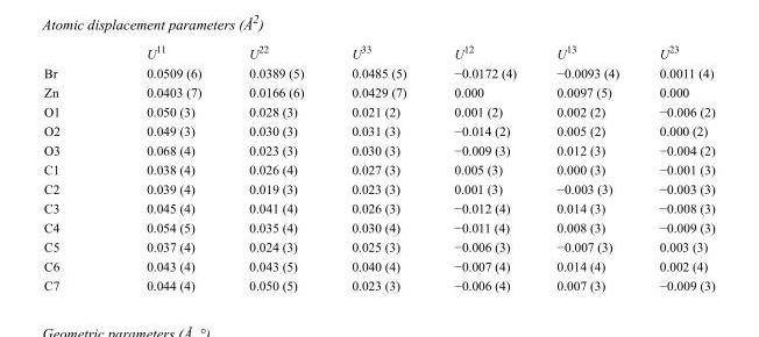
<table><thead><tr><td></td><td>U<sup>11</sup></td><td>U<sup>22</sup></td><td>U<sup>33</sup></td><td>U<sup>12</sup></td><td>U<sup>13</sup></td><td>U<sup>23</sup></td></tr></thead><tbody><tr><td>Br</td><td>0.0509 (6)</td><td>0.0389 (5)</td><td>0.0485 (5)</td><td>−0.0172 (4)</td><td>−0.0093 (4)</td><td>0.0011 (4)</td></tr><tr><td>Zn</td><td>0.0403 (7)</td><td>0.0166 (6)</td><td>0.0429 (7)</td><td>0.000</td><td>0.0097 (5)</td><td>0.000</td></tr><tr><td>O1</td><td>0.050 (3)</td><td>0.028 (3)</td><td>0.021 (2)</td><td>0.001 (2)</td><td>0.002 (2)</td><td>−0.006 (2)</td></tr><tr><td>O2</td><td>0.049 (3)</td><td>0.030 (3)</td><td>0.031 (3)</td><td>−0.014 (2)</td><td>0.005 (2)</td><td>0.000 (2)</td></tr><tr><td>O3</td><td>0.068 (4)</td><td>0.023 (3)</td><td>0.030 (3)</td><td>−0.009 (3)</td><td>0.012 (3)</td><td>−0.004 (2)</td></tr><tr><td>C1</td><td>0.038 (4)</td><td>0.026 (4)</td><td>0.027 (3)</td><td>0.005 (3)</td><td>0.000 (3)</td><td>−0.001 (3)</td></tr><tr><td>C2</td><td>0.039 (4)</td><td>0.019 (3)</td><td>0.023 (3)</td><td>0.001 (3)</td><td>−0.003 (3)</td><td>−0.003 (3)</td></tr><tr><td>C3</td><td>0.045 (4)</td><td>0.041 (4)</td><td>0.026 (3)</td><td>−0.012 (4)</td><td>0.014 (3)</td><td>−0.008 (3)</td></tr><tr><td>C4</td><td>0.054 (5)</td><td>0.035 (4)</td><td>0.030 (4)</td><td>−0.011 (4)</td><td>0.008 (3)</td><td>−0.009 (3)</td></tr><tr><td>C5</td><td>0.037 (4)</td><td>0.024 (3)</td><td>0.025 (3)</td><td>−0.006 (3)</td><td>−0.007 (3)</td><td>0.003 (3)</td></tr><tr><td>C6</td><td>0.043 (4)</td><td>0.043 (5)</td><td>0.040 (4)</td><td>−0.007 (4)</td><td>0.014 (4)</td><td>0.002 (4)</td></tr><tr><td>C7</td><td>0.044 (4)</td><td>0.050 (5)</td><td>0.023 (3)</td><td>−0.006 (4)</td><td>0.007 (3)</td><td>−0.009 (3)</td></tr></tbody></table>